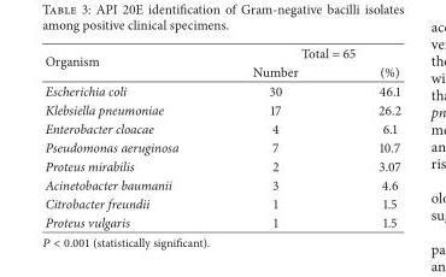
<table><thead><tr><td rowspan="2">Organism</td><td colspan="2">Total = 65</td></tr><tr><td>Number</td><td>(%)</td></tr></thead><tbody><tr><td>Escherichia coli</td><td>30</td><td>46.1</td></tr><tr><td>Klebsiella pneumoniae</td><td>17</td><td>26.2</td></tr><tr><td>Enterobacter cloacae</td><td>4</td><td>6.1</td></tr><tr><td>Pseudomonas aeruginosa</td><td>7</td><td>10.7</td></tr><tr><td>Proteus mirabilis</td><td>2</td><td>3.07</td></tr><tr><td>Acinetobacter baumanii</td><td>3</td><td>4.6</td></tr><tr><td>Citrobacter freundii</td><td>1</td><td>1.5</td></tr><tr><td>Proteus vulgaris</td><td>1</td><td>1.5</td></tr></tbody></table>